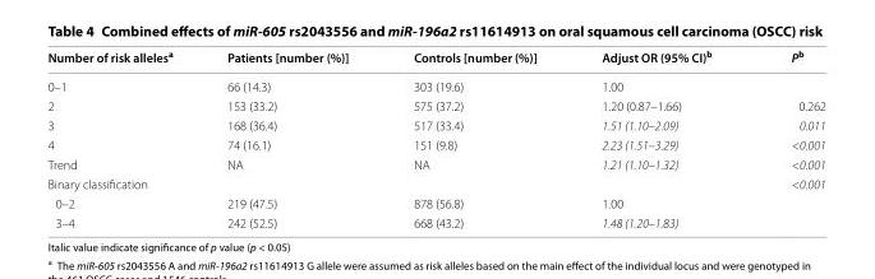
<table><thead><tr><td>Number of risk alleles<sup>a</sup></td><td>Patients [number (%)]</td><td>Controls [number (%)]</td><td>Adjust OR (95% CI)<sup>b</sup></td><td>P<sup>b</sup></td></tr></thead><tbody><tr><td>0–1</td><td>66 (14.3)</td><td>303 (19.6)</td><td>1.00</td><td></td></tr><tr><td>2</td><td>153 (33.2)</td><td>575 (37.2)</td><td>1.20 (0.87–1.66)</td><td>0.262</td></tr><tr><td>3</td><td>168 (36.4)</td><td>517 (33.4)</td><td>1.51 (1.10–2.09)</td><td>0.011</td></tr><tr><td>4</td><td>74 (16.1)</td><td>151 (9.8)</td><td>2.23 (1.51–3.29)</td><td>&lt;0.001</td></tr><tr><td>Trend</td><td>NA</td><td>NA</td><td>1.21 (1.10–1.32)</td><td>&lt;0.001</td></tr><tr><td>Binary classification</td><td></td><td></td><td></td><td>&lt;0.001</td></tr><tr><td>0–2</td><td>219 (47.5)</td><td>878 (56.8)</td><td colspan="2">1.00</td></tr><tr><td>3–4</td><td>242 (52.5)</td><td>668 (43.2)</td><td colspan="2">1.48 (1.20–1.83)</td></tr></tbody></table>